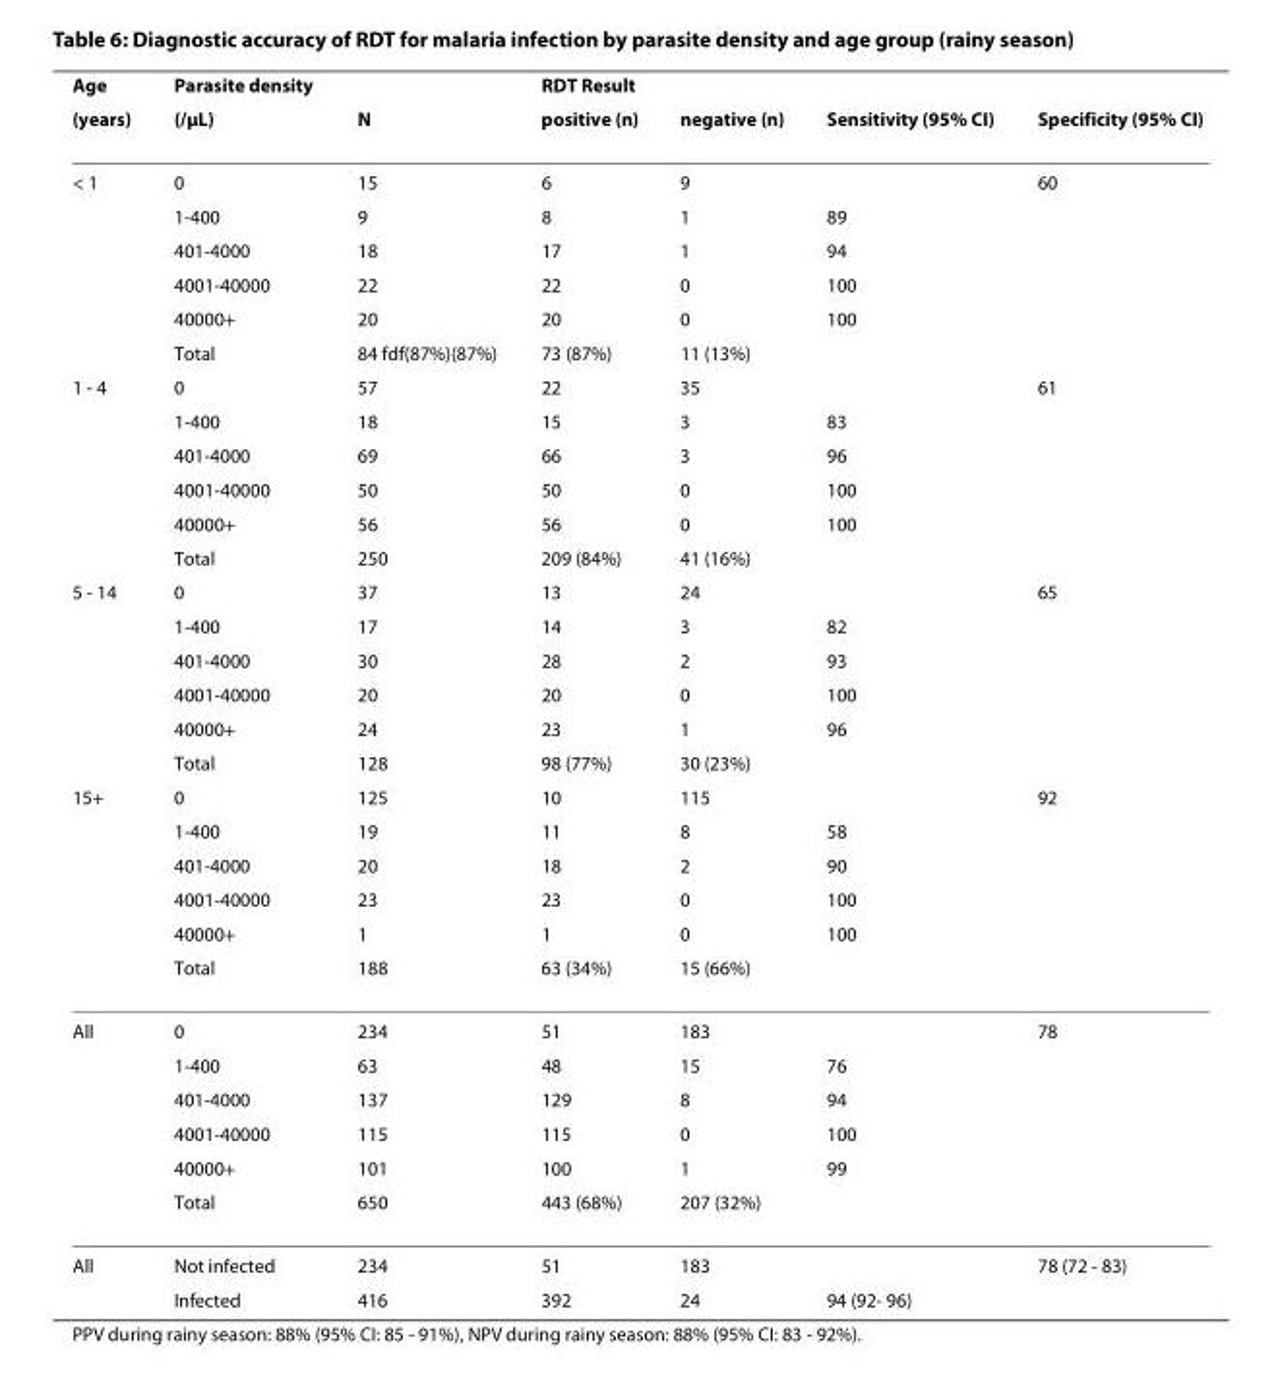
<table><thead><tr><td rowspan="2">Age (years)</td><td rowspan="2">Parasite density (/μL)</td><td rowspan="2">N</td><td colspan="2">RDT Result</td><td rowspan="2">Sensitivity (95% CI)</td><td rowspan="2">Specificity (95% CI)</td></tr><tr><td>positive (n)</td><td>negative (n)</td></tr></thead><tbody><tr><td rowspan="6">&lt; 1</td><td>0</td><td>15</td><td>6</td><td>9</td><td></td><td>60</td></tr><tr><td>1-400</td><td>9</td><td>8</td><td>1</td><td>89</td><td></td></tr><tr><td>401-4000</td><td>18</td><td>17</td><td>1</td><td>94</td><td></td></tr><tr><td>4001-40000</td><td>22</td><td>22</td><td>0</td><td>100</td><td></td></tr><tr><td>40000+</td><td>20</td><td>20</td><td>0</td><td>100</td><td></td></tr><tr><td>Total</td><td>84 fdf(87%)(87%)</td><td>73 (87%)</td><td>11 (13%)</td><td></td><td></td></tr><tr><td rowspan="6">1 - 4</td><td>0</td><td>57</td><td>22</td><td>35</td><td></td><td>61</td></tr><tr><td>1-400</td><td>18</td><td>15</td><td>3</td><td>83</td><td></td></tr><tr><td>401-4000</td><td>69</td><td>66</td><td>3</td><td>96</td><td></td></tr><tr><td>4001-40000</td><td>50</td><td>50</td><td>0</td><td>100</td><td></td></tr><tr><td>40000+</td><td>56</td><td>56</td><td>0</td><td>100</td><td></td></tr><tr><td>Total</td><td>250</td><td>209 (84%)</td><td>41 (16%)</td><td></td><td></td></tr><tr><td rowspan="6">5 - 14</td><td>0</td><td>37</td><td>13</td><td>24</td><td></td><td>65</td></tr><tr><td>1-400</td><td>17</td><td>14</td><td>3</td><td>82</td><td></td></tr><tr><td>401-4000</td><td>30</td><td>28</td><td>2</td><td>93</td><td></td></tr><tr><td>4001-40000</td><td>20</td><td>20</td><td>0</td><td>100</td><td></td></tr><tr><td>40000+</td><td>24</td><td>23</td><td>1</td><td>96</td><td></td></tr><tr><td>Total</td><td>128</td><td>98 (77%)</td><td>30 (23%)</td><td></td><td></td></tr><tr><td rowspan="6">15+</td><td>0</td><td>125</td><td>10</td><td>115</td><td></td><td>92</td></tr><tr><td>1-400</td><td>19</td><td>11</td><td>8</td><td>58</td><td></td></tr><tr><td>401-4000</td><td>20</td><td>18</td><td>2</td><td>90</td><td></td></tr><tr><td>4001-40000</td><td>23</td><td>23</td><td>0</td><td>100</td><td></td></tr><tr><td>40000+</td><td>1</td><td>1</td><td>0</td><td>100</td><td></td></tr><tr><td>Total</td><td>188</td><td>63 (34%)</td><td>15 (66%)</td><td></td><td></td></tr><tr><td rowspan="6">All</td><td>0</td><td>234</td><td>51</td><td>183</td><td></td><td>78</td></tr><tr><td>1-400</td><td>63</td><td>48</td><td>15</td><td>76</td><td></td></tr><tr><td>401-4000</td><td>137</td><td>129</td><td>8</td><td>94</td><td></td></tr><tr><td>4001-40000</td><td>115</td><td>115</td><td>0</td><td>100</td><td></td></tr><tr><td>40000+</td><td>101</td><td>100</td><td>1</td><td>99</td><td></td></tr><tr><td>Total</td><td>650</td><td>443 (68%)</td><td>207 (32%)</td><td></td><td></td></tr><tr><td rowspan="2">All</td><td>Not infected</td><td>234</td><td>51</td><td>183</td><td></td><td>78 (72 - 83)</td></tr><tr><td>Infected</td><td>416</td><td>392</td><td>24</td><td>94 (92- 96)</td><td></td></tr></tbody></table>